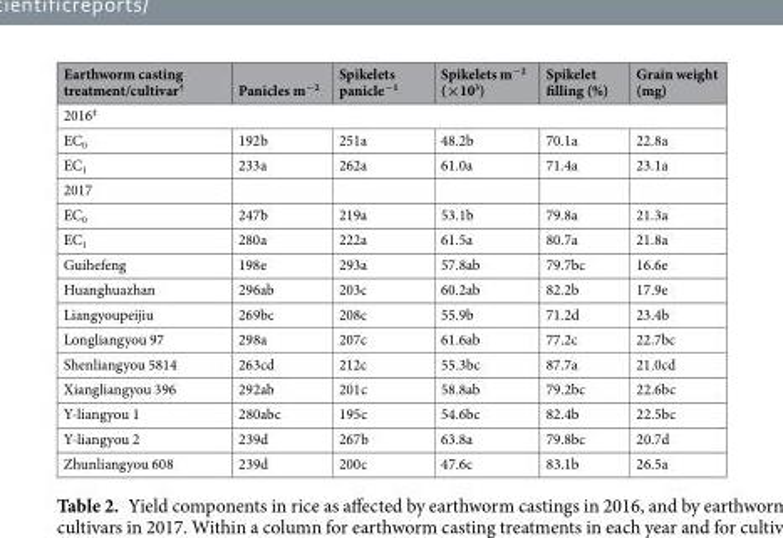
<table><thead><tr><td>Earthworm casting treatment/cultivar<sup>†</sup></td><td>Panicles m<sup>−2</sup></td><td>Spikelets panicle<sup>−1</sup></td><td>Spikelets m<sup>−2</sup> (×10<sup>3</sup>)</td><td>Spikelet filling (%)</td><td>Grain weight (mg)</td></tr></thead><tbody><tr><td colspan="6">2016<sup>‡</sup></td></tr><tr><td>EC<sub>0</sub></td><td>192b</td><td>251a</td><td>48.2b</td><td>70.1a</td><td>22.8a</td></tr><tr><td>EC<sub>1</sub></td><td>233a</td><td>262a</td><td>61.0a</td><td>71.4a</td><td>23.1a</td></tr><tr><td colspan="6">2017</td></tr><tr><td>EC<sub>0</sub></td><td>247b</td><td>219a</td><td>53.1b</td><td>79.8a</td><td>21.3a</td></tr><tr><td>EC<sub>1</sub></td><td>280a</td><td>222a</td><td>61.5a</td><td>80.7a</td><td>21.8a</td></tr><tr><td>Guihefeng</td><td>198e</td><td>293a</td><td>57.8ab</td><td>79.7bc</td><td>16.6e</td></tr><tr><td>Huanghuazhan</td><td>296ab</td><td>203c</td><td>60.2ab</td><td>82.2b</td><td>17.9e</td></tr><tr><td>Liangyoupeijiu</td><td>269bc</td><td>208c</td><td>55.9b</td><td>71.2d</td><td>23.4b</td></tr><tr><td>Longliangyou 97</td><td>298a</td><td>207c</td><td>61.6ab</td><td>77.2c</td><td>22.7bc</td></tr><tr><td>Shenliangyou 5814</td><td>263cd</td><td>212c</td><td>55.3bc</td><td>87.7a</td><td>21.0cd</td></tr><tr><td>Xiangliangyou 396</td><td>292ab</td><td>201c</td><td>58.8ab</td><td>79.2bc</td><td>22.6bc</td></tr><tr><td>Y-liangyou 1</td><td>280abc</td><td>195c</td><td>54.6bc</td><td>82.4b</td><td>22.5bc</td></tr><tr><td>Y-liangyou 2</td><td>239d</td><td>267b</td><td>63.8a</td><td>79.8bc</td><td>20.7d</td></tr><tr><td>Zhunliangyou 608</td><td>239d</td><td>200c</td><td>47.6c</td><td>83.1b</td><td>26.5a</td></tr></tbody></table>